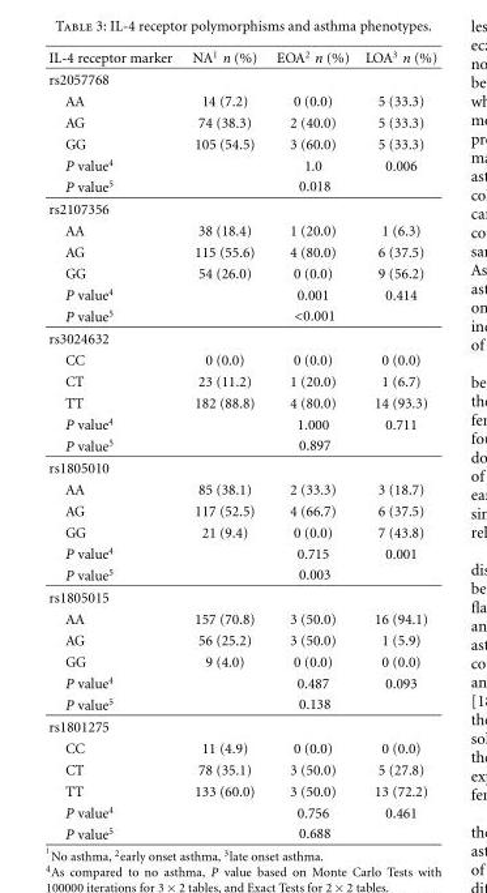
<table><thead><tr><td>IL-4 receptor marker</td><td>NA<sup>1</sup> n (%)</td><td>EOA<sup>2</sup> n (%)</td><td>LOA<sup>3</sup> n (%)</td></tr></thead><tbody><tr><td colspan="4">rs2057768</td></tr><tr><td>AA</td><td>14 (7.2)</td><td>0 (0.0)</td><td>5 (33.3)</td></tr><tr><td>AG</td><td>74 (38.3)</td><td>2 (40.0)</td><td>5 (33.3)</td></tr><tr><td>GG</td><td>105 (54.5)</td><td>3 (60.0)</td><td>5 (33.3)</td></tr><tr><td>P value<sup>4</sup></td><td></td><td>1.0</td><td>0.006</td></tr><tr><td>P value<sup>5</sup></td><td colspan="3">0.018</td></tr><tr><td colspan="4">rs2107356</td></tr><tr><td>AA</td><td>38 (18.4)</td><td>1 (20.0)</td><td>1 (6.3)</td></tr><tr><td>AG</td><td>115 (55.6)</td><td>4 (80.0)</td><td>6 (37.5)</td></tr><tr><td>GG</td><td>54 (26.0)</td><td>0 (0.0)</td><td>9 (56.2)</td></tr><tr><td>P value<sup>4</sup></td><td></td><td>0.001</td><td>0.414</td></tr><tr><td>P value<sup>5</sup></td><td colspan="3">&lt;0.001</td></tr><tr><td colspan="4">rs3024632</td></tr><tr><td>CC</td><td>0 (0.0)</td><td>0 (0.0)</td><td>0 (0.0)</td></tr><tr><td>CT</td><td>23 (11.2)</td><td>1 (20.0)</td><td>1 (6.7)</td></tr><tr><td>TT</td><td>182 (88.8)</td><td>4 (80.0)</td><td>14 (93.3)</td></tr><tr><td>P value<sup>4</sup></td><td></td><td>1.000</td><td>0.711</td></tr><tr><td>P value<sup>5</sup></td><td colspan="3">0.897</td></tr><tr><td colspan="4">rs1805010</td></tr><tr><td>AA</td><td>85 (38.1)</td><td>2 (33.3)</td><td>3 (18.7)</td></tr><tr><td>AG</td><td>117 (52.5)</td><td>4 (66.7)</td><td>6 (37.5)</td></tr><tr><td>GG</td><td>21 (9.4)</td><td>0 (0.0)</td><td>7 (43.8)</td></tr><tr><td>P value<sup>4</sup></td><td></td><td>0.715</td><td>0.001</td></tr><tr><td>P value<sup>5</sup></td><td colspan="3">0.003</td></tr><tr><td colspan="4">rs1805015</td></tr><tr><td>AA</td><td>157 (70.8)</td><td>3 (50.0)</td><td>16 (94.1)</td></tr><tr><td>AG</td><td>56 (25.2)</td><td>3 (50.0)</td><td>1 (5.9)</td></tr><tr><td>GG</td><td>9 (4.0)</td><td>0 (0.0)</td><td>0 (0.0)</td></tr><tr><td>P value<sup>4</sup></td><td></td><td>0.487</td><td>0.093</td></tr><tr><td>P value<sup>5</sup></td><td colspan="3">0.138</td></tr><tr><td colspan="4">rs1801275</td></tr><tr><td>CC</td><td>11 (4.9)</td><td>0 (0.0)</td><td>0 (0.0)</td></tr><tr><td>CT</td><td>78 (35.1)</td><td>3 (50.0)</td><td>5 (27.8)</td></tr><tr><td>TT</td><td>133 (60.0)</td><td>3 (50.0)</td><td>13 (72.2)</td></tr><tr><td>P value<sup>4</sup></td><td></td><td>0.756</td><td>0.461</td></tr><tr><td>P value<sup>5</sup></td><td colspan="3">0.688</td></tr></tbody></table>